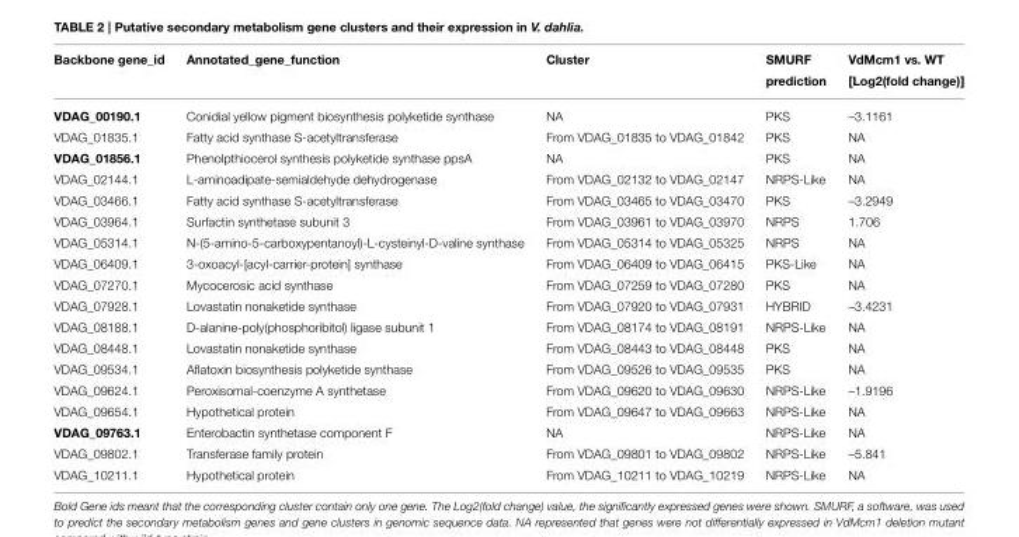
<table><thead><tr><td>Backbone gene_id</td><td>Annotated_gene_function</td><td>Cluster</td><td>SMURF prediction</td><td>VdMcm1 vs. WT [Log2(fold change)]</td></tr></thead><tbody><tr><td>VDAG_00190.1</td><td>Conidial yellow pigment biosynthesis polyketide synthase</td><td>NA</td><td>PKS</td><td>–3.1161</td></tr><tr><td>VDAG_01835.1</td><td>Fatty acid synthase S-acetyltransferase</td><td>From VDAG_01835 to VDAG_01842</td><td>PKS</td><td>NA</td></tr><tr><td>VDAG_01856.1</td><td>Phenolpthiocerol synthesis polyketide synthase ppsA</td><td>NA</td><td>PKS</td><td>NA</td></tr><tr><td>VDAG_02144.1</td><td>L-aminoadipate-semialdehyde dehydrogenase</td><td>From VDAG_02132 to VDAG_02147</td><td>NRPS-Like</td><td>NA</td></tr><tr><td>VDAG_03466.1</td><td>Fatty acid synthase S-acetyltransferase</td><td>From VDAG_03465 to VDAG_03470</td><td>PKS</td><td>–3.2949</td></tr><tr><td>VDAG_03964.1</td><td>Surfactin synthetase subunit 3</td><td>From VDAG_03961 to VDAG_03970</td><td>NRPS</td><td>1.706</td></tr><tr><td>VDAG_05314.1</td><td>N-(5-amino-5-carboxypentanoyl)-L-cysteinyl-D-valine synthase</td><td>From VDAG_05314 to VDAG_05325</td><td>NRPS</td><td>NA</td></tr><tr><td>VDAG_06409.1</td><td>3-oxoacyl-[acyl-carrier-protein] synthase</td><td>From VDAG_06409 to VDAG_06415</td><td>PKS-Like</td><td>NA</td></tr><tr><td>VDAG_07270.1</td><td>Mycocerosic acid synthase</td><td>From VDAG_07259 to VDAG_07280</td><td>PKS</td><td>NA</td></tr><tr><td>VDAG_07928.1</td><td>Lovastatin nonaketide synthase</td><td>From VDAG_07920 to VDAG_07931</td><td>HYBRID</td><td>–3.4231</td></tr><tr><td>VDAG_08188.1</td><td>D-alanine-poly(phosphoribitol) ligase subunit 1</td><td>From VDAG_08174 to VDAG_08191</td><td>NRPS-Like</td><td>NA</td></tr><tr><td>VDAG_08448.1</td><td>Lovastatin nonaketide synthase</td><td>From VDAG_08443 to VDAG_08448</td><td>PKS</td><td>NA</td></tr><tr><td>VDAG_09534.1</td><td>Aflatoxin biosynthesis polyketide synthase</td><td>From VDAG_09526 to VDAG_09535</td><td>PKS</td><td>NA</td></tr><tr><td>VDAG_09624.1</td><td>Peroxisomal-coenzyme A synthetase</td><td>From VDAG_09620 to VDAG_09630</td><td>NRPS-Like</td><td>–1.9196</td></tr><tr><td>VDAG_09654.1</td><td>Hypothetical protein</td><td>From VDAG_09647 to VDAG_09663</td><td>NRPS-Like</td><td>NA</td></tr><tr><td>VDAG_09763.1</td><td>Enterobactin synthetase component F</td><td>NA</td><td>NRPS-Like</td><td>NA</td></tr><tr><td>VDAG_09802.1</td><td>Transferase family protein</td><td>From VDAG_09801 to VDAG_09802</td><td>NRPS-Like</td><td>–5.841</td></tr><tr><td>VDAG_10211.1</td><td>Hypothetical protein</td><td>From VDAG_10211 to VDAG_10219</td><td>NRPS-Like</td><td>NA</td></tr></tbody></table>